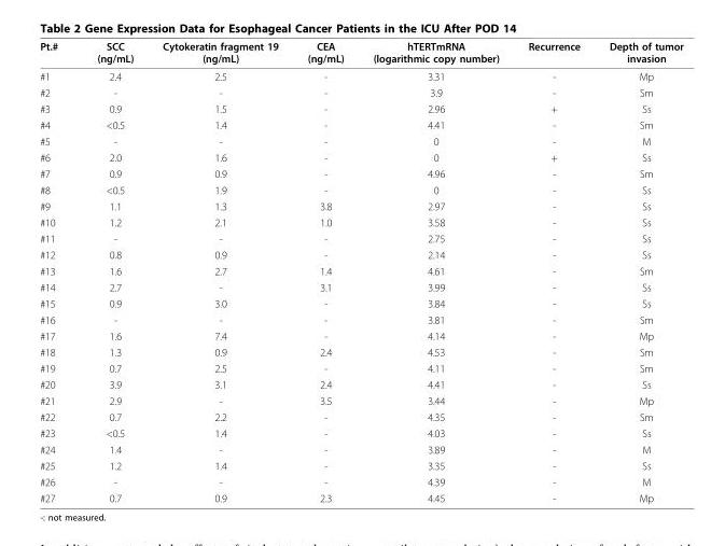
<table><thead><tr><td>Pt.#</td><td>SCC (ng/mL)</td><td>Cytokeratin fragment 19 (ng/mL)</td><td>CEA (ng/mL)</td><td>hTERTmRNA (logarithmic copy number)</td><td>Recurrence</td><td>Depth of tumor invasion</td></tr></thead><tbody><tr><td>#1</td><td>2.4</td><td>2.5</td><td>-</td><td>3.31</td><td>-</td><td>Mp</td></tr><tr><td>#2</td><td>-</td><td>-</td><td>-</td><td>3.9</td><td>-</td><td>Sm</td></tr><tr><td>#3</td><td>0.9</td><td>1.5</td><td>-</td><td>2.96</td><td>+</td><td>Ss</td></tr><tr><td>#4</td><td>&lt;0.5</td><td>1.4</td><td>-</td><td>4.41</td><td>-</td><td>Sm</td></tr><tr><td>#5</td><td>-</td><td>-</td><td>-</td><td>0</td><td>-</td><td>M</td></tr><tr><td>#6</td><td>2.0</td><td>1.6</td><td>-</td><td>0</td><td>+</td><td>Ss</td></tr><tr><td>#7</td><td>0.9</td><td>0.9</td><td>-</td><td>4.96</td><td>-</td><td>Sm</td></tr><tr><td>#8</td><td>&lt;0.5</td><td>1.9</td><td>-</td><td>0</td><td>-</td><td>Ss</td></tr><tr><td>#9</td><td>1.1</td><td>1.3</td><td>3.8</td><td>2.97</td><td>-</td><td>Ss</td></tr><tr><td>#10</td><td>1.2</td><td>2.1</td><td>1.0</td><td>3.58</td><td>-</td><td>Ss</td></tr><tr><td>#11</td><td>-</td><td>-</td><td>-</td><td>2.75</td><td>-</td><td>Ss</td></tr><tr><td>#12</td><td>0.8</td><td>0.9</td><td>-</td><td>2.14</td><td>-</td><td>Ss</td></tr><tr><td>#13</td><td>1.6</td><td>2.7</td><td>1.4</td><td>4.61</td><td>-</td><td>Sm</td></tr><tr><td>#14</td><td>2.7</td><td>-</td><td>3.1</td><td>3.99</td><td>-</td><td>Ss</td></tr><tr><td>#15</td><td>0.9</td><td>3.0</td><td>-</td><td>3.84</td><td>-</td><td>Ss</td></tr><tr><td>#16</td><td>-</td><td>-</td><td>-</td><td>3.81</td><td>-</td><td>Sm</td></tr><tr><td>#17</td><td>1.6</td><td>7.4</td><td>-</td><td>4.14</td><td>-</td><td>Mp</td></tr><tr><td>#18</td><td>1.3</td><td>0.9</td><td>2.4</td><td>4.53</td><td>-</td><td>Sm</td></tr><tr><td>#19</td><td>0.7</td><td>2.5</td><td>-</td><td>4.11</td><td>-</td><td>Sm</td></tr><tr><td>#20</td><td>3.9</td><td>3.1</td><td>2.4</td><td>4.41</td><td>-</td><td>Ss</td></tr><tr><td>#21</td><td>2.9</td><td>-</td><td>3.5</td><td>3.44</td><td>-</td><td>Mp</td></tr><tr><td>#22</td><td>0.7</td><td>2.2</td><td>-</td><td>4.35</td><td>-</td><td>Sm</td></tr><tr><td>#23</td><td>&lt;0.5</td><td>1.4</td><td>-</td><td>4.03</td><td>-</td><td>Ss</td></tr><tr><td>#24</td><td>1.4</td><td>-</td><td>-</td><td>3.89</td><td>-</td><td>M</td></tr><tr><td>#25</td><td>1.2</td><td>1.4</td><td>-</td><td>3.35</td><td>-</td><td>Ss</td></tr><tr><td>#26</td><td>-</td><td>-</td><td>-</td><td>4.39</td><td>-</td><td>M</td></tr><tr><td>#27</td><td>0.7</td><td>0.9</td><td>2.3</td><td>4.45</td><td>-</td><td>Mp</td></tr></tbody></table>